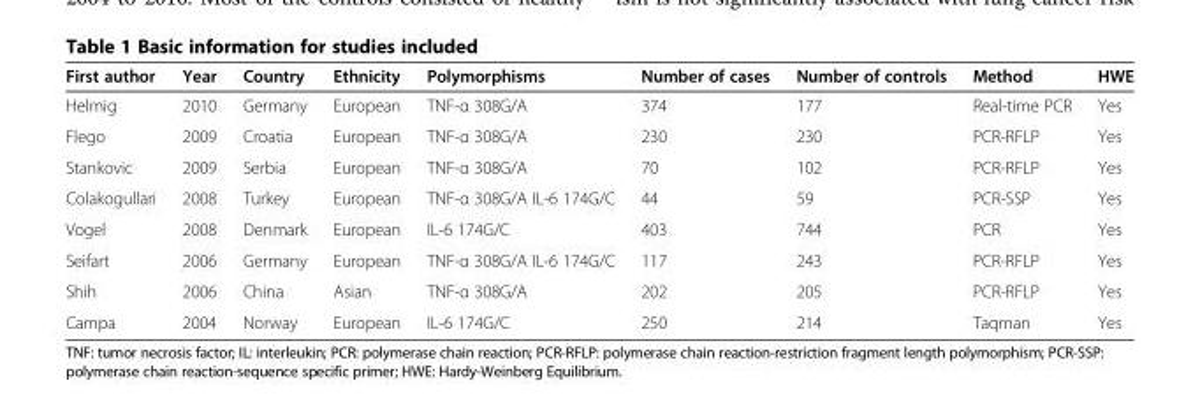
<table><thead><tr><td>First author</td><td>Year</td><td>Country</td><td>Ethnicity</td><td>Polymorphisms</td><td>Number of cases</td><td>Number of controls</td><td>Method</td><td>HWE</td></tr></thead><tbody><tr><td>Helmig</td><td>2010</td><td>Germany</td><td>European</td><td>TNF-α 308G/A</td><td>374</td><td>177</td><td>Real-time PCR</td><td>Yes</td></tr><tr><td>Flego</td><td>2009</td><td>Croatia</td><td>European</td><td>TNF-α 308G/A</td><td>230</td><td>230</td><td>PCR-RFLP</td><td>Yes</td></tr><tr><td>Stankovic</td><td>2009</td><td>Serbia</td><td>European</td><td>TNF-α 308G/A</td><td>70</td><td>102</td><td>PCR-RFLP</td><td>Yes</td></tr><tr><td>Colakogullari</td><td>2008</td><td>Turkey</td><td>European</td><td>TNF-α 308G/A IL-6 174G/C</td><td>44</td><td>59</td><td>PCR-SSP</td><td>Yes</td></tr><tr><td>Vogel</td><td>2008</td><td>Denmark</td><td>European</td><td>IL-6 174G/C</td><td>403</td><td>744</td><td>PCR</td><td>Yes</td></tr><tr><td>Seifart</td><td>2006</td><td>Germany</td><td>European</td><td>TNF-α 308G/A IL-6 174G/C</td><td>117</td><td>243</td><td>PCR-RFLP</td><td>Yes</td></tr><tr><td>Shih</td><td>2006</td><td>China</td><td>Asian</td><td>TNF-α 308G/A</td><td>202</td><td>205</td><td>PCR-RFLP</td><td>Yes</td></tr><tr><td>Campa</td><td>2004</td><td>Norway</td><td>European</td><td>IL-6 174G/C</td><td>250</td><td>214</td><td>Taqman</td><td>Yes</td></tr></tbody></table>